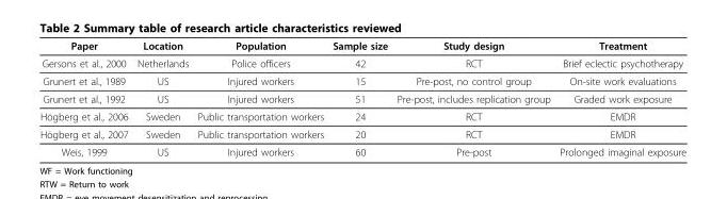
<table><thead><tr><td>Paper</td><td>Location</td><td>Population</td><td>Sample size</td><td>Study design</td><td>Treatment</td></tr></thead><tbody><tr><td>Gersons et al., 2000</td><td>Netherlands</td><td>Police officers</td><td>42</td><td>RCT</td><td>Brief eclectic psychotherapy</td></tr><tr><td>Grunert et al., 1989</td><td>US</td><td>Injured workers</td><td>15</td><td>Pre-post, no control group</td><td>On-site work evaluations</td></tr><tr><td>Grunert et al., 1992</td><td>US</td><td>Injured workers</td><td>51</td><td>Pre-post, includes replication group</td><td>Graded work exposure</td></tr><tr><td>Högberg et al., 2006</td><td>Sweden</td><td>Public transportation workers</td><td>24</td><td>RCT</td><td>EMDR</td></tr><tr><td>Högberg et al., 2007</td><td>Sweden</td><td>Public transportation workers</td><td>20</td><td>RCT</td><td>EMDR</td></tr><tr><td>Weis, 1999</td><td>US</td><td>Injured workers</td><td>60</td><td>Pre-post</td><td>Prolonged imaginal exposure</td></tr></tbody></table>